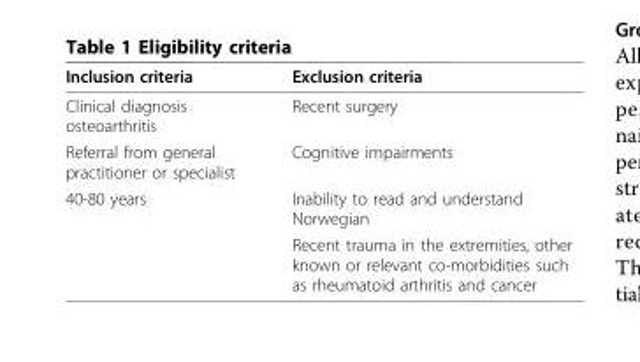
<table><thead><tr><td>Inclusion criteria</td><td>Exclusion criteria</td></tr></thead><tbody><tr><td>Clinical diagnosis osteoarthritis</td><td>Recent surgery</td></tr><tr><td>Referral from general practitioner or specialist</td><td>Cognitive impairments</td></tr><tr><td rowspan="2">40-80 years</td><td>Inability to read and understand Norwegian</td></tr><tr><td>Recent trauma in the extremities, other known or relevant co-morbidities such as rheumatoid arthritis and cancer</td></tr></tbody></table>